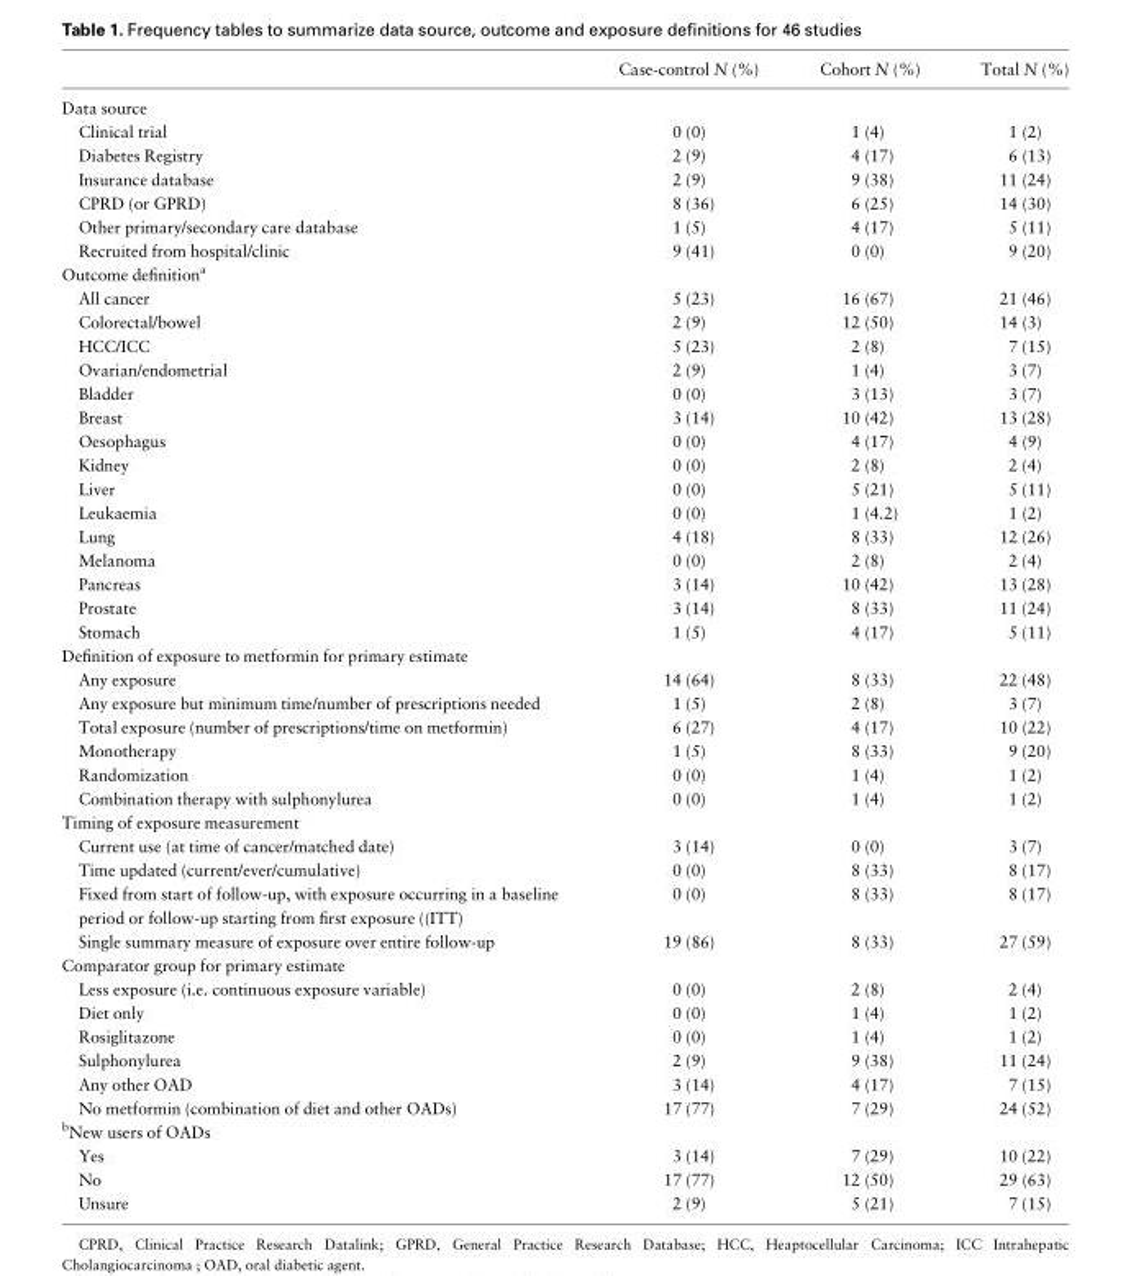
<table><thead><tr><td></td><td>Case-control N (%)</td><td>Cohort N (%)</td><td>Total N (%)</td></tr></thead><tbody><tr><td colspan="4">Data source</td></tr><tr><td>Clinical trial</td><td>0 (0)</td><td>1 (4)</td><td>1 (2)</td></tr><tr><td>Diabetes Registry</td><td>2 (9)</td><td>4 (17)</td><td>6 (13)</td></tr><tr><td>Insurance database</td><td>2 (9)</td><td>9 (38)</td><td>11 (24)</td></tr><tr><td>CPRD (or GPRD)</td><td>8 (36)</td><td>6 (25)</td><td>14 (30)</td></tr><tr><td>Other primary/secondary care database</td><td>1 (5)</td><td>4 (17)</td><td>5 (11)</td></tr><tr><td>Recruited from hospital/clinic</td><td>9 (41)</td><td>0 (0)</td><td>9 (20)</td></tr><tr><td colspan="4">Outcome definition<sup>a</sup></td></tr><tr><td>All cancer</td><td>5 (23)</td><td>16 (67)</td><td>21 (46)</td></tr><tr><td>Colorectal/bowel</td><td>2 (9)</td><td>12 (50)</td><td>14 (3)</td></tr><tr><td>HCC/ICC</td><td>5 (23)</td><td>2 (8)</td><td>7 (15)</td></tr><tr><td>Ovarian/endometrial</td><td>2 (9)</td><td>1 (4)</td><td>3 (7)</td></tr><tr><td>Bladder</td><td>0 (0)</td><td>3 (13)</td><td>3 (7)</td></tr><tr><td>Breast</td><td>3 (14)</td><td>10 (42)</td><td>13 (28)</td></tr><tr><td>Oesophagus</td><td>0 (0)</td><td>4 (17)</td><td>4 (9)</td></tr><tr><td>Kidney</td><td>0 (0)</td><td>2 (8)</td><td>2 (4)</td></tr><tr><td>Liver</td><td>0 (0)</td><td>5 (21)</td><td>5 (11)</td></tr><tr><td>Leukaemia</td><td>0 (0)</td><td>1 (4.2)</td><td>1 (2)</td></tr><tr><td>Lung</td><td>4 (18)</td><td>8 (33)</td><td>12 (26)</td></tr><tr><td>Melanoma</td><td>0 (0)</td><td>2 (8)</td><td>2 (4)</td></tr><tr><td>Pancreas</td><td>3 (14)</td><td>10 (42)</td><td>13 (28)</td></tr><tr><td>Prostate</td><td>3 (14)</td><td>8 (33)</td><td>11 (24)</td></tr><tr><td>Stomach</td><td>1 (5)</td><td>4 (17)</td><td>5 (11)</td></tr><tr><td colspan="4">Definition of exposure to metformin for primary estimate</td></tr><tr><td>Any exposure</td><td>14 (64)</td><td>8 (33)</td><td>22 (48)</td></tr><tr><td>Any exposure but minimum time/number of prescriptions needed</td><td>1 (5)</td><td>2 (8)</td><td>3 (7)</td></tr><tr><td>Total exposure (number of prescriptions/time on metformin)</td><td>6 (27)</td><td>4 (17)</td><td>10 (22)</td></tr><tr><td>Monotherapy</td><td>1 (5)</td><td>8 (33)</td><td>9 (20)</td></tr><tr><td>Randomization</td><td>0 (0)</td><td>1 (4)</td><td>1 (2)</td></tr><tr><td>Combination therapy with sulphonylurea</td><td>0 (0)</td><td>1 (4)</td><td>1 (2)</td></tr><tr><td colspan="4">Timing of exposure measurement</td></tr><tr><td>Current use (at time of cancer/matched date)</td><td>3 (14)</td><td>0 (0)</td><td>3 (7)</td></tr><tr><td>Time updated (current/ever/cumulative)</td><td>0 (0)</td><td>8 (33)</td><td>8 (17)</td></tr><tr><td>Fixed from start of follow-up, with exposure occurring in a baseline period or follow-up starting from first exposure ((ITT)</td><td>0 (0)</td><td>8 (33)</td><td>8 (17)</td></tr><tr><td>Single summary measure of exposure over entire follow-up</td><td>19 (86)</td><td>8 (33)</td><td>27 (59)</td></tr><tr><td colspan="4">Comparator group for primary estimate</td></tr><tr><td>Less exposure (i.e. continuous exposure variable)</td><td>0 (0)</td><td>2 (8)</td><td>2 (4)</td></tr><tr><td>Diet only</td><td>0 (0)</td><td>1 (4)</td><td>1 (2)</td></tr><tr><td>Rosiglitazone</td><td>0 (0)</td><td>1 (4)</td><td>1 (2)</td></tr><tr><td>Sulphonylurea</td><td>2 (9)</td><td>9 (38)</td><td>11 (24)</td></tr><tr><td>Any other OAD</td><td>3 (14)</td><td>4 (17)</td><td>7 (15)</td></tr><tr><td>No metformin (combination of diet and other OADs)</td><td>17 (77)</td><td>7 (29)</td><td>24 (52)</td></tr><tr><td colspan="4"><sup>b</sup>New users of OADs</td></tr><tr><td>Yes</td><td>3 (14)</td><td>7 (29)</td><td>10 (22)</td></tr><tr><td>No</td><td>17 (77)</td><td>12 (50)</td><td>29 (63)</td></tr><tr><td>Unsure</td><td>2 (9)</td><td>5 (21)</td><td>7 (15)</td></tr></tbody></table>